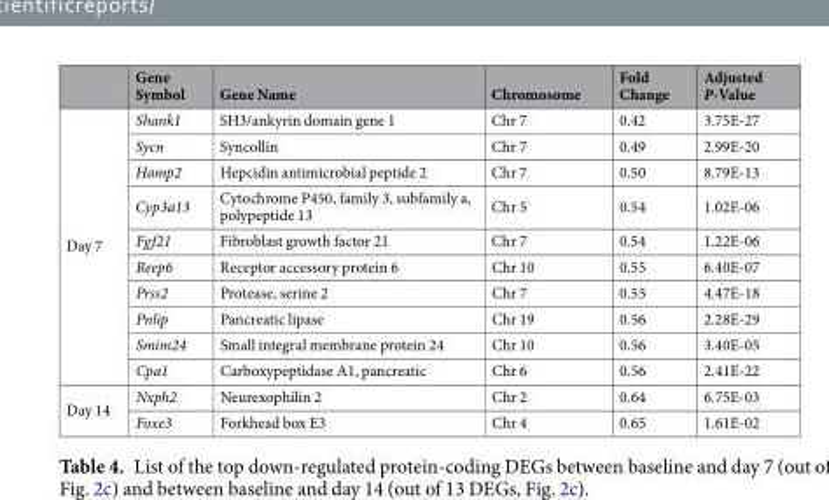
<table><thead><tr><td></td><td>Gene Symbol</td><td>Gene Name</td><td>Chromosome</td><td>Fold Change</td><td>Adjusted P-Value</td></tr></thead><tbody><tr><td rowspan="10">Day 7</td><td>Shank1</td><td>SH3/ankyrin domain gene 1</td><td>Chr 7</td><td>0.42</td><td>3.75E-27</td></tr><tr><td>Sycn</td><td>Syncollin</td><td>Chr 7</td><td>0.49</td><td>2.99E-20</td></tr><tr><td>Hamp2</td><td>Hepcidin antimicrobial peptide 2</td><td>Chr 7</td><td>0.50</td><td>8.79E-13</td></tr><tr><td>Cyp3a13</td><td>Cytochrome P450, family 3, subfamily a, polypeptide 13</td><td>Chr 5</td><td>0.54</td><td>1.02E-06</td></tr><tr><td>Fgf21</td><td>Fibroblast growth factor 21</td><td>Chr 7</td><td>0.54</td><td>1.22E-06</td></tr><tr><td>Reep6</td><td>Receptor accessory protein 6</td><td>Chr 10</td><td>0.55</td><td>6.40E-07</td></tr><tr><td>Prss2</td><td>Protease, serine 2</td><td>Chr 7</td><td>0.55</td><td>4.47E-18</td></tr><tr><td>Pnlip</td><td>Pancreatic lipase</td><td>Chr 19</td><td>0.56</td><td>2.28E-29</td></tr><tr><td>Smim24</td><td>Small integral membrane protein 24</td><td>Chr 10</td><td>0.56</td><td>3.40E-05</td></tr><tr><td>Cpa1</td><td>Carboxypeptidase A1, pancreatic</td><td>Chr 6</td><td>0.56</td><td>2.41E-22</td></tr><tr><td rowspan="2">Day 14</td><td>Nxph2</td><td>Neurexophilin 2</td><td>Chr 2</td><td>0.64</td><td>6.75E-03</td></tr><tr><td>Foxe3</td><td>Forkhead box E3</td><td>Chr 4</td><td>0.65</td><td>1.61E-02</td></tr></tbody></table>